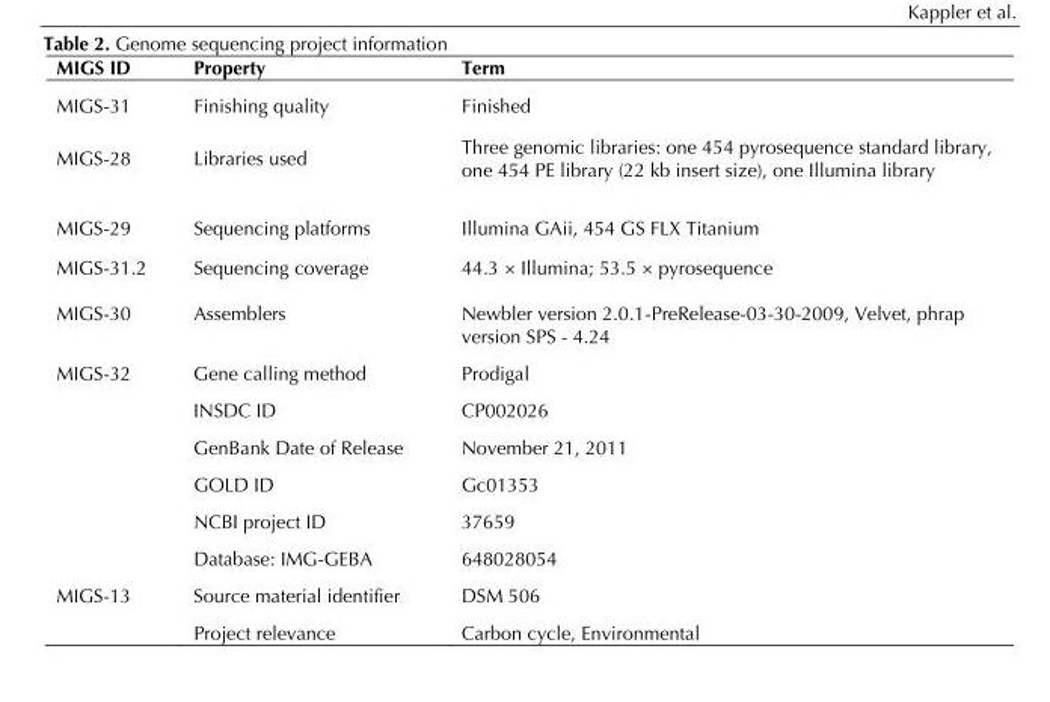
<table><thead><tr><td>MIGS ID</td><td>Property</td><td>Term</td></tr></thead><tbody><tr><td>MIGS-31</td><td>Finishing quality</td><td>Finished</td></tr><tr><td>MIGS-28</td><td>Libraries used</td><td>Three genomic libraries: one 454 pyrosequence standard library, one 454 PE library (22 kb insert size), one Illumina library</td></tr><tr><td>MIGS-29</td><td>Sequencing platforms</td><td>Illumina GAii, 454 GS FLX Titanium</td></tr><tr><td>MIGS-31.2</td><td>Sequencing coverage</td><td>44.3 × Illumina; 53.5 × pyrosequence</td></tr><tr><td>MIGS-30</td><td>Assemblers</td><td>Newbler version 2.0.1-PreRelease-03-30-2009, Velvet, phrap version SPS - 4.24</td></tr><tr><td rowspan="6">MIGS-32</td><td>Gene calling method</td><td>Prodigal</td></tr><tr><td>INSDC ID</td><td>CP002026</td></tr><tr><td>GenBank Date of Release</td><td>November 21, 2011</td></tr><tr><td>GOLD ID</td><td>Gc01353</td></tr><tr><td>NCBI project ID</td><td>37659</td></tr><tr><td>Database: IMG-GEBA</td><td>648028054</td></tr><tr><td rowspan="2">MIGS-13</td><td>Source material identifier</td><td>DSM 506</td></tr><tr><td>Project relevance</td><td>Carbon cycle, Environmental</td></tr></tbody></table>